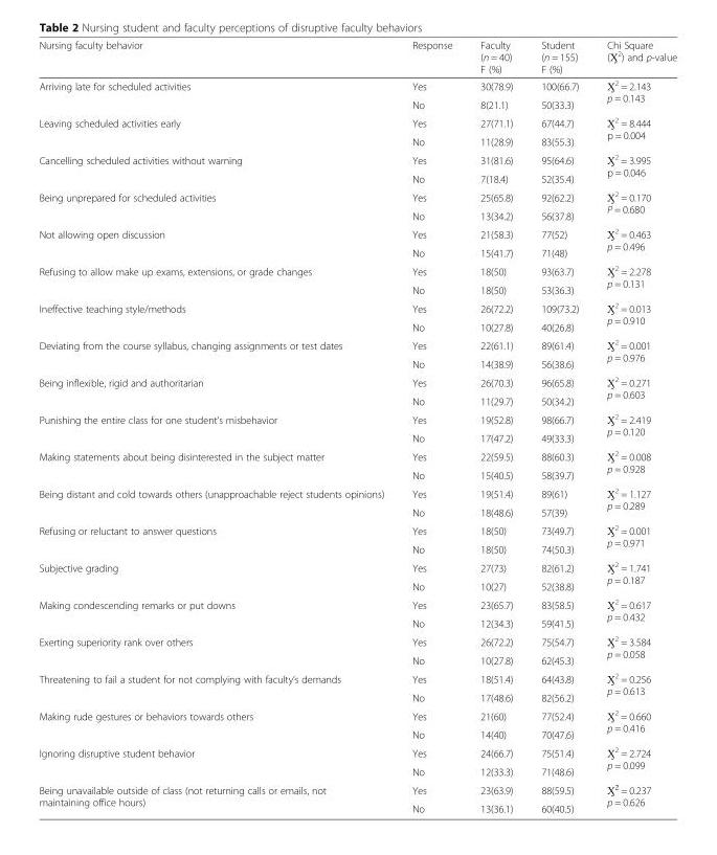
<table><thead><tr><td>Nursing faculty behavior</td><td>Response</td><td>Faculty (n = 40) F (%)</td><td>Student (n = 155) F (%)</td><td>Chi Square (Ӽ<sup>2</sup>) and p-value</td></tr></thead><tbody><tr><td rowspan="2">Arriving late for scheduled activities</td><td>Yes</td><td>30(78.9)</td><td>100(66.7)</td><td rowspan="2">Ӽ<sup>2</sup> = 2.143 p = 0.143</td></tr><tr><td>No</td><td>8(21.1)</td><td>50(33.3)</td></tr><tr><td rowspan="2">Leaving scheduled activities early</td><td>Yes</td><td>27(71.1)</td><td>67(44.7)</td><td rowspan="2">Ӽ<sup>2</sup> = 8.444 p = 0.004</td></tr><tr><td>No</td><td>11(28.9)</td><td>83(55.3)</td></tr><tr><td rowspan="2">Cancelling scheduled activities without warning</td><td>Yes</td><td>31(81.6)</td><td>95(64.6)</td><td rowspan="2">Ӽ<sup>2</sup> = 3.995 p = 0.046</td></tr><tr><td>No</td><td>7(18.4)</td><td>52(35.4)</td></tr><tr><td rowspan="2">Being unprepared for scheduled activities</td><td>Yes</td><td>25(65.8)</td><td>92(62.2)</td><td rowspan="2">Ӽ<sup>2</sup> = 0.170 P = 0.680</td></tr><tr><td>No</td><td>13(34.2)</td><td>56(37.8)</td></tr><tr><td rowspan="2">Not allowing open discussion</td><td>Yes</td><td>21(58.3)</td><td>77(52)</td><td rowspan="2">Ӽ<sup>2</sup> = 0.463 p = 0.496</td></tr><tr><td>No</td><td>15(41.7)</td><td>71(48)</td></tr><tr><td rowspan="2">Refusing to allow make up exams, extensions, or grade changes</td><td>Yes</td><td>18(50)</td><td>93(63.7)</td><td rowspan="2">Ӽ<sup>2</sup> = 2.278 p = 0.131</td></tr><tr><td>No</td><td>18(50)</td><td>53(36.3)</td></tr><tr><td rowspan="2">Ineffective teaching style/methods</td><td>Yes</td><td>26(72.2)</td><td>109(73.2)</td><td rowspan="2">Ӽ<sup>2</sup> = 0.013 p = 0.910</td></tr><tr><td>No</td><td>10(27.8)</td><td>40(26.8)</td></tr><tr><td rowspan="2">Deviating from the course syllabus, changing assignments or test dates</td><td>Yes</td><td>22(61.1)</td><td>89(61.4)</td><td rowspan="2">Ӽ<sup>2</sup> = 0.001 p = 0.976</td></tr><tr><td>No</td><td>14(38.9)</td><td>56(38.6)</td></tr><tr><td rowspan="2">Being inflexible, rigid and authoritarian</td><td>Yes</td><td>26(70.3)</td><td>96(65.8)</td><td rowspan="2">Ӽ<sup>2</sup> = 0.271 p = 0.603</td></tr><tr><td>No</td><td>11(29.7)</td><td>50(34.2)</td></tr><tr><td rowspan="2">Punishing the entire class for one student’s misbehavior</td><td>Yes</td><td>19(52.8)</td><td>98(66.7)</td><td rowspan="2">Ӽ<sup>2</sup> = 2.419 p = 0.120</td></tr><tr><td>No</td><td>17(47.2)</td><td>49(33.3)</td></tr><tr><td rowspan="2">Making statements about being disinterested in the subject matter</td><td>Yes</td><td>22(59.5)</td><td>88(60.3)</td><td rowspan="2">Ӽ<sup>2</sup> = 0.008 p = 0.928</td></tr><tr><td>No</td><td>15(40.5)</td><td>58(39.7)</td></tr><tr><td rowspan="2">Being distant and cold towards others (unapproachable reject students opinions)</td><td>Yes</td><td>19(51.4)</td><td>89(61)</td><td rowspan="2">Ӽ<sup>2</sup> = 1.127 p = 0.289</td></tr><tr><td>No</td><td>18(48.6)</td><td>57(39)</td></tr><tr><td rowspan="2">Refusing or reluctant to answer questions</td><td>Yes</td><td>18(50)</td><td>73(49.7)</td><td rowspan="2">Ӽ<sup>2</sup> = 0.001 p = 0.971</td></tr><tr><td>No</td><td>18(50)</td><td>74(50.3)</td></tr><tr><td rowspan="2">Subjective grading</td><td>Yes</td><td>27(73)</td><td>82(61.2)</td><td rowspan="2">Ӽ<sup>2</sup> = 1.741 p = 0.187</td></tr><tr><td>No</td><td>10(27)</td><td>52(38.8)</td></tr><tr><td rowspan="2">Making condescending remarks or put downs</td><td>Yes</td><td>23(65.7)</td><td>83(58.5)</td><td rowspan="2">Ӽ<sup>2</sup> = 0.617 p = 0.432</td></tr><tr><td>No</td><td>12(34.3)</td><td>59(41.5)</td></tr><tr><td rowspan="2">Exerting superiority rank over others</td><td>Yes</td><td>26(72.2)</td><td>75(54.7)</td><td rowspan="2">Ӽ<sup>2</sup> = 3.584 p = 0.058</td></tr><tr><td>No</td><td>10(27.8)</td><td>62(45.3)</td></tr><tr><td rowspan="2">Threatening to fail a student for not complying with faculty’s demands</td><td>Yes</td><td>18(51.4)</td><td>64(43.8)</td><td rowspan="2">Ӽ<sup>2</sup> = 0.256 p = 0.613</td></tr><tr><td>No</td><td>17(48.6)</td><td>82(56.2)</td></tr><tr><td rowspan="2">Making rude gestures or behaviors towards others</td><td>Yes</td><td>21(60)</td><td>77(52.4)</td><td rowspan="2">Ӽ<sup>2</sup> = 0.660 p = 0.416</td></tr><tr><td>No</td><td>14(40)</td><td>70(47.6)</td></tr><tr><td rowspan="2">Ignoring disruptive student behavior</td><td>Yes</td><td>24(66.7)</td><td>75(51.4)</td><td rowspan="2">Ӽ<sup>2</sup> = 2.724 p = 0.099</td></tr><tr><td>No</td><td>12(33.3)</td><td>71(48.6)</td></tr><tr><td rowspan="2">Being unavailable outside of class (not returning calls or emails, not maintaining office hours)</td><td>Yes</td><td>23(63.9)</td><td>88(59.5)</td><td rowspan="2">Ӽ<sup>2</sup> = 0.237 p = 0.626</td></tr><tr><td>No</td><td>13(36.1)</td><td>60(40.5)</td></tr></tbody></table>